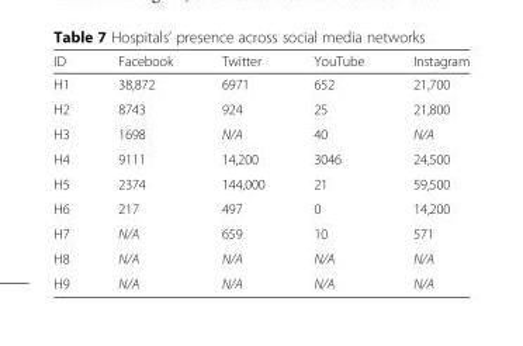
<table><thead><tr><td>ID</td><td>Facebook</td><td>Twitter</td><td>YouTube</td><td>Instagram</td></tr></thead><tbody><tr><td>H1</td><td>38,872</td><td>6971</td><td>652</td><td>21,700</td></tr><tr><td>H2</td><td>8743</td><td>924</td><td>25</td><td>21,800</td></tr><tr><td>H3</td><td>1698</td><td>N/A</td><td>40</td><td>N/A</td></tr><tr><td>H4</td><td>9111</td><td>14,200</td><td>3046</td><td>24,500</td></tr><tr><td>H5</td><td>2374</td><td>144,000</td><td>21</td><td>59,500</td></tr><tr><td>H6</td><td>217</td><td>497</td><td>0</td><td>14,200</td></tr><tr><td>H7</td><td>N/A</td><td>659</td><td>10</td><td>571</td></tr><tr><td>H8</td><td>N/A</td><td>N/A</td><td>N/A</td><td>N/A</td></tr><tr><td>H9</td><td>N/A</td><td>N/A</td><td>N/A</td><td>N/A</td></tr></tbody></table>